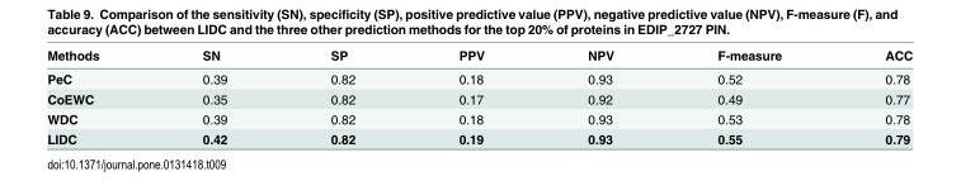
<table><thead><tr><td>Methods</td><td>SN</td><td>SP</td><td>PPV</td><td>NPV</td><td>F-measure</td><td>ACC</td></tr></thead><tbody><tr><td>PeC</td><td>0.39</td><td>0.82</td><td>0.18</td><td>0.93</td><td>0.52</td><td>0.78</td></tr><tr><td>CoEWC</td><td>0.35</td><td>0.82</td><td>0.17</td><td>0.92</td><td>0.49</td><td>0.77</td></tr><tr><td>WDC</td><td>0.39</td><td>0.82</td><td>0.18</td><td>0.93</td><td>0.53</td><td>0.78</td></tr><tr><td>LIDC</td><td>0.42</td><td>0.82</td><td>0.19</td><td>0.93</td><td>0.55</td><td>0.79</td></tr></tbody></table>